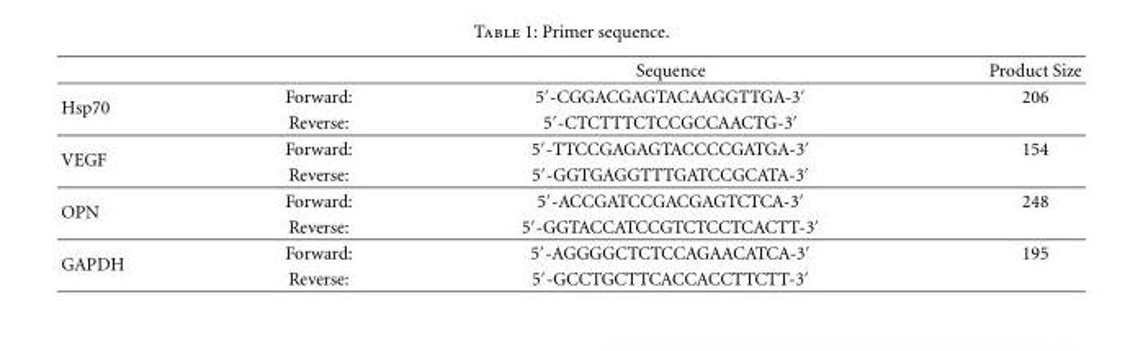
<table><thead><tr><td></td><td></td><td>Sequence</td><td>Product Size</td></tr></thead><tbody><tr><td rowspan="2">Hsp70</td><td>Forward:</td><td>5′-CGGACGAGTACAAGGTTGA-3′</td><td>206</td></tr><tr><td>Reverse:</td><td>5′-CTCTTTCTCCGCCAACTG-3′</td><td></td></tr><tr><td rowspan="2">VEGF</td><td>Forward:</td><td>5′-TTCCGAGAGTACCCCGATGA-3′</td><td>154</td></tr><tr><td>Reverse:</td><td>5′-GGTGAGGTTTGATCCGCATA-3′</td><td></td></tr><tr><td rowspan="2">OPN</td><td>Forward:</td><td>5′-ACCGATCCGACGAGTCTCA-3′</td><td>248</td></tr><tr><td>Reverse:</td><td>5′-GGTACCATCCGTCTCCTCACTT-3′</td><td></td></tr><tr><td rowspan="2">GAPDH</td><td>Forward:</td><td>5′-AGGGGCTCTCCAGAACATCA-3′</td><td>195</td></tr><tr><td>Reverse:</td><td>5′-GCCTGCTTCACCACCTTCTT-3′</td><td></td></tr></tbody></table>